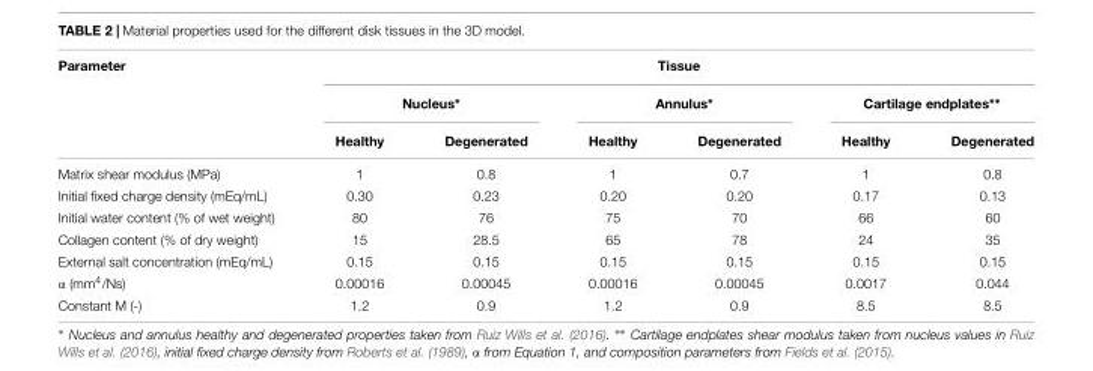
<table><thead><tr><td rowspan="3">Parameter</td><td colspan="6">Tissue</td></tr><tr><td colspan="2">Nucleus∗</td><td colspan="2">Annulus∗</td><td colspan="2">Cartilage endplates∗∗</td></tr><tr><td>Healthy</td><td>Degenerated</td><td>Healthy</td><td>Degenerated</td><td>Healthy</td><td>Degenerated</td></tr></thead><tbody><tr><td>Matrix shear modulus (MPa)</td><td>1</td><td>0.8</td><td>1</td><td>0.7</td><td>1</td><td>0.8</td></tr><tr><td>Initial fixed charge density (mEq/mL)</td><td>0.30</td><td>0.23</td><td>0.20</td><td>0.20</td><td>0.17</td><td>0.13</td></tr><tr><td>Initial water content (% of wet weight)</td><td>80</td><td>76</td><td>75</td><td>70</td><td>66</td><td>60</td></tr><tr><td>Collagen content (% of dry weight)</td><td>15</td><td>28.5</td><td>65</td><td>78</td><td>24</td><td>35</td></tr><tr><td>External salt concentration (mEq/mL)</td><td>0.15</td><td>0.15</td><td>0.15</td><td>0.15</td><td>0.15</td><td>0.15</td></tr><tr><td>α (mm<sup>4</sup>/Ns)</td><td>0.00016</td><td>0.00045</td><td>0.00016</td><td>0.00045</td><td>0.0017</td><td>0.044</td></tr><tr><td>Constant M (-)</td><td>1.2</td><td>0.9</td><td>1.2</td><td>0.9</td><td>8.5</td><td>8.5</td></tr></tbody></table>